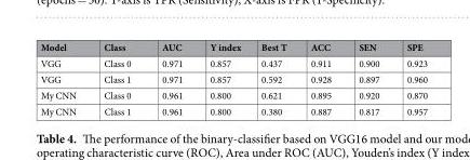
<table><thead><tr><td>Model</td><td>Class</td><td>AUC</td><td>Y index</td><td>Best T</td><td>ACC</td><td>SEN</td><td>SPE</td></tr></thead><tbody><tr><td>VGG</td><td>Class 0</td><td>0.971</td><td>0.857</td><td>0.437</td><td>0.911</td><td>0.900</td><td>0.923</td></tr><tr><td>VGG</td><td>Class 1</td><td>0.971</td><td>0.857</td><td>0.592</td><td>0.928</td><td>0.897</td><td>0.960</td></tr><tr><td>My CNN</td><td>Class 0</td><td>0.961</td><td>0.800</td><td>0.621</td><td>0.895</td><td>0.920</td><td>0.870</td></tr><tr><td>My CNN</td><td>Class 1</td><td>0.961</td><td>0.800</td><td>0.380</td><td>0.887</td><td>0.817</td><td>0.957</td></tr></tbody></table>